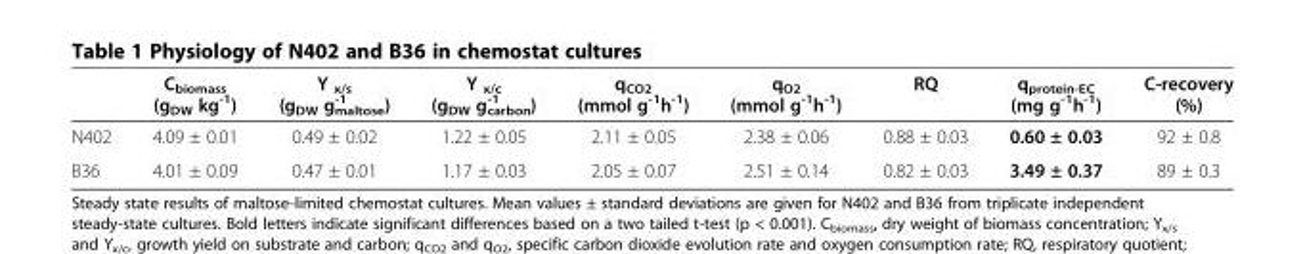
<table><thead><tr><td></td><td>C<sub>biomass</sub> (g<sub>DW</sub> kg<sup>-1</sup>)</td><td>Y <sub>x/s</sub> (g<sub>DW</sub> g<sub>maltose</sub> <sup>-1</sup> )</td><td>Y <sub>x/c</sub> (g<sub>DW</sub> g<sub>carbon</sub> <sup>-1</sup> )</td><td>q<sub>CO2</sub> (mmol g<sup>-1</sup>h<sup>-1</sup>)</td><td>q<sub>O2</sub> (mmol g<sup>-1</sup>h<sup>-1</sup>)</td><td>RQ</td><td>q<sub>protein-EC</sub> (mg g<sup>-1</sup>h<sup>-1</sup>)</td><td>C-recovery (%)</td></tr></thead><tbody><tr><td>N402</td><td>4.09 ± 0.01</td><td>0.49 ± 0.02</td><td>1.22 ± 0.05</td><td>2.11 ± 0.05</td><td>2.38 ± 0.06</td><td>0.88 ± 0.03</td><td>0.60 ± 0.03</td><td>92 ± 0.8</td></tr><tr><td>B36</td><td>4.01 ± 0.09</td><td>0.47 ± 0.01</td><td>1.17 ± 0.03</td><td>2.05 ± 0.07</td><td>2.51 ± 0.14</td><td>0.82 ± 0.03</td><td>3.49 ± 0.37</td><td>89 ± 0.3</td></tr></tbody></table>